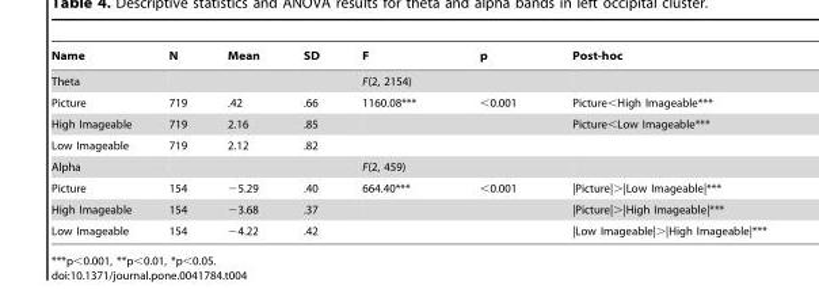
<table><thead><tr><td>Name</td><td>N</td><td>Mean</td><td>SD</td><td>F</td><td>p</td><td>Post-hoc</td></tr></thead><tbody><tr><td>Theta</td><td></td><td></td><td></td><td>F(2, 2154)</td><td></td><td></td></tr><tr><td>Picture</td><td>719</td><td>.42</td><td>.66</td><td>1160.08***</td><td>&lt;0.001</td><td>Picture&lt;High Imageable***</td></tr><tr><td>High Imageable</td><td>719</td><td>2.16</td><td>.85</td><td></td><td></td><td>Picture&lt;Low Imageable***</td></tr><tr><td>Low Imageable</td><td>719</td><td>2.12</td><td>.82</td><td></td><td></td><td></td></tr><tr><td>Alpha</td><td></td><td></td><td></td><td>F(2, 459)</td><td></td><td></td></tr><tr><td>Picture</td><td>154</td><td>−5.29</td><td>.40</td><td>664.40***</td><td>&lt;0.001</td><td>|Picture|&gt;|Low Imageable|***</td></tr><tr><td>High Imageable</td><td>154</td><td>−3.68</td><td>.37</td><td></td><td></td><td>|Picture|&gt;|High Imageable|***</td></tr><tr><td>Low Imageable</td><td>154</td><td>−4.22</td><td>.42</td><td></td><td></td><td>|Low Imageable|&gt;|High Imageable|***</td></tr></tbody></table>